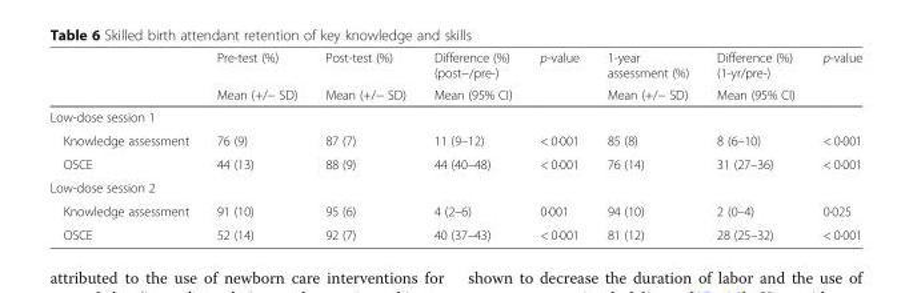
<table><thead><tr><td rowspan="2"></td><td rowspan="2">Pre-test (%) Mean (+/− SD)</td><td rowspan="2">Post-test (%) Mean (+/− SD)</td><td rowspan="2">Difference (%) (post−/pre-) Mean (95% CI)</td><td rowspan="2">p-value</td><td rowspan="2">1-year assessment (%) Mean (+/− SD)</td><td rowspan="2">Difference (%) (1-yr/pre-) Mean (95% CI)</td><td rowspan="2">p-value</td></tr><tr></tr></thead><tbody><tr><td colspan="8">Low-dose session 1</td></tr><tr><td>Knowledge assessment</td><td>76 (9)</td><td>87 (7)</td><td>11 (9–12)</td><td>&lt; 0·001</td><td>85 (8)</td><td>8 (6–10)</td><td>&lt; 0·001</td></tr><tr><td>OSCE</td><td>44 (13)</td><td>88 (9)</td><td>44 (40–48)</td><td>&lt; 0·001</td><td>76 (14)</td><td>31 (27–36)</td><td>&lt; 0·001</td></tr><tr><td colspan="8">Low-dose session 2</td></tr><tr><td>Knowledge assessment</td><td>91 (10)</td><td>95 (6)</td><td>4 (2–6)</td><td>0·001</td><td>94 (10)</td><td>2 (0–4)</td><td>0·025</td></tr><tr><td>OSCE</td><td>52 (14)</td><td>92 (7)</td><td>40 (37–43)</td><td>&lt; 0·001</td><td>81 (12)</td><td>28 (25–32)</td><td>&lt; 0·001</td></tr></tbody></table>